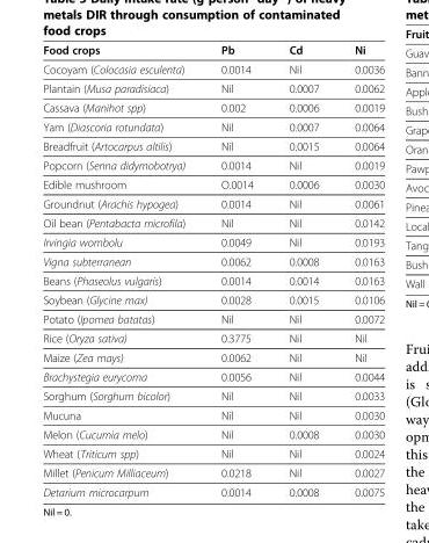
<table><thead><tr><td>Food crops</td><td>Pb</td><td>Cd</td><td>Ni</td></tr></thead><tbody><tr><td>Cocoyam (Colocasia esculenta)</td><td>0.0014</td><td>Nil</td><td>0.0036</td></tr><tr><td>Plantain (Musa paradisiaca)</td><td>Nil</td><td>0.0007</td><td>0.0062</td></tr><tr><td>Cassava (Manihot spp)</td><td>0.002</td><td>0.0006</td><td>0.0019</td></tr><tr><td>Yam (Diascoria rotundata)</td><td>Nil</td><td>0.0007</td><td>0.0064</td></tr><tr><td>Breadfruit (Artocarpus altilis)</td><td>Nil</td><td>0.0015</td><td>0.0064</td></tr><tr><td>Popcorn (Senna didymobotrya)</td><td>0.0014</td><td>Nil</td><td>0.0019</td></tr><tr><td>Edible mushroom</td><td>O.0014</td><td>0.0006</td><td>0.0030</td></tr><tr><td>Groundnut (Arachis hypogea)</td><td>0.0014</td><td>Nil</td><td>0.0061</td></tr><tr><td>Oil bean (Pentabacta microfila)</td><td>Nil</td><td>Nil</td><td>0.0142</td></tr><tr><td>Irvingia wombolu</td><td>0.0049</td><td>Nil</td><td>0.0193</td></tr><tr><td>Vigna subterranean</td><td>0.0062</td><td>0.0008</td><td>0.0163</td></tr><tr><td>Beans (Phaseolus vulgaris)</td><td>0.0014</td><td>0.0014</td><td>0.0163</td></tr><tr><td>Soybean (Glycine max)</td><td>0.0028</td><td>0.0015</td><td>0.0106</td></tr><tr><td>Potato (Ipomea batatas)</td><td>Nil</td><td>Nil</td><td>0.0072</td></tr><tr><td>Rice (Oryza sativa)</td><td>0.3775</td><td>Nil</td><td>Nil</td></tr><tr><td>Maize (Zea mays)</td><td>0.0062</td><td>Nil</td><td>Nil</td></tr><tr><td>Brachystegia eurycoma</td><td>0.0056</td><td>Nil</td><td>0.0044</td></tr><tr><td>Sorghum (Sorghum bicolor)</td><td>Nil</td><td>Nil</td><td>0.0033</td></tr><tr><td>Mucuna</td><td>Nil</td><td>Nil</td><td>0.0030</td></tr><tr><td>Melon (Cucumia melo)</td><td>Nil</td><td>0.0008</td><td>0.0030</td></tr><tr><td>Wheat (Triticum spp)</td><td>Nil</td><td>Nil</td><td>0.0024</td></tr><tr><td>Millet (Penicum Milliaceum)</td><td>0.0218</td><td>Nil</td><td>0.0027</td></tr><tr><td>Detarium microcarpum</td><td>0.0014</td><td>0.0008</td><td>0.0075</td></tr></tbody></table>